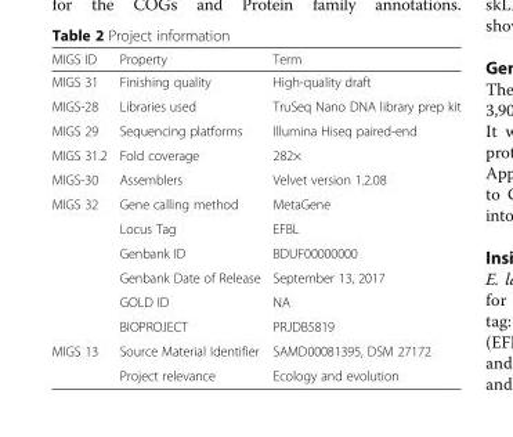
<table><thead><tr><td>MIGS ID</td><td>Property</td><td>Term</td></tr></thead><tbody><tr><td>MIGS 31</td><td>Finishing quality</td><td>High-quality draft</td></tr><tr><td>MIGS-28</td><td>Libraries used</td><td>TruSeq Nano DNA library prep kit</td></tr><tr><td>MIGS 29</td><td>Sequencing platforms</td><td>Illumina Hiseq paired-end</td></tr><tr><td>MIGS 31.2</td><td>Fold coverage</td><td>282×</td></tr><tr><td>MIGS-30</td><td>Assemblers</td><td>Velvet version 1.2.08</td></tr><tr><td rowspan="6">MIGS 32</td><td>Gene calling method</td><td>MetaGene</td></tr><tr><td>Locus Tag</td><td>EFBL</td></tr><tr><td>Genbank ID</td><td>BDUF00000000</td></tr><tr><td>Genbank Date of Release</td><td>September 13, 2017</td></tr><tr><td>GOLD ID</td><td>NA</td></tr><tr><td>BIOPROJECT</td><td>PRJDB5819</td></tr><tr><td rowspan="2">MIGS 13</td><td>Source Material Identifier</td><td>SAMD00081395, DSM 27172</td></tr><tr><td>Project relevance</td><td>Ecology and evolution</td></tr></tbody></table>